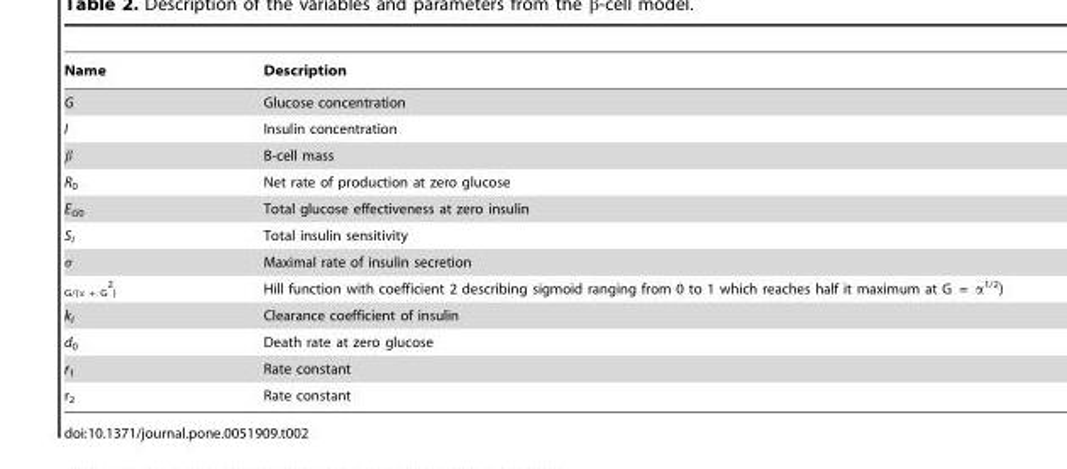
<table><thead><tr><td>Name</td><td>Description</td></tr></thead><tbody><tr><td>G</td><td>Glucose concentration</td></tr><tr><td>I</td><td>Insulin concentration</td></tr><tr><td>β</td><td>B-cell mass</td></tr><tr><td>R<sub>0</sub></td><td>Net rate of production at zero glucose</td></tr><tr><td>E<sub>G0</sub></td><td>Total glucose effectiveness at zero insulin</td></tr><tr><td>S<sub>I</sub></td><td>Total insulin sensitivity</td></tr><tr><td>σ</td><td>Maximal rate of insulin secretion</td></tr><tr><td><sub>G/(α + G</sub> <sup>2</sup> <sub>)</sub></td><td>Hill function with coefficient 2 describing sigmoid ranging from 0 to 1 which reaches half it maximum at G = α<sup>1/2</sup>)</td></tr><tr><td>k<sub>I</sub></td><td>Clearance coefficient of insulin</td></tr><tr><td>d<sub>0</sub></td><td>Death rate at zero glucose</td></tr><tr><td>r<sub>1</sub></td><td>Rate constant</td></tr><tr><td>r<sub>2</sub></td><td>Rate constant</td></tr></tbody></table>